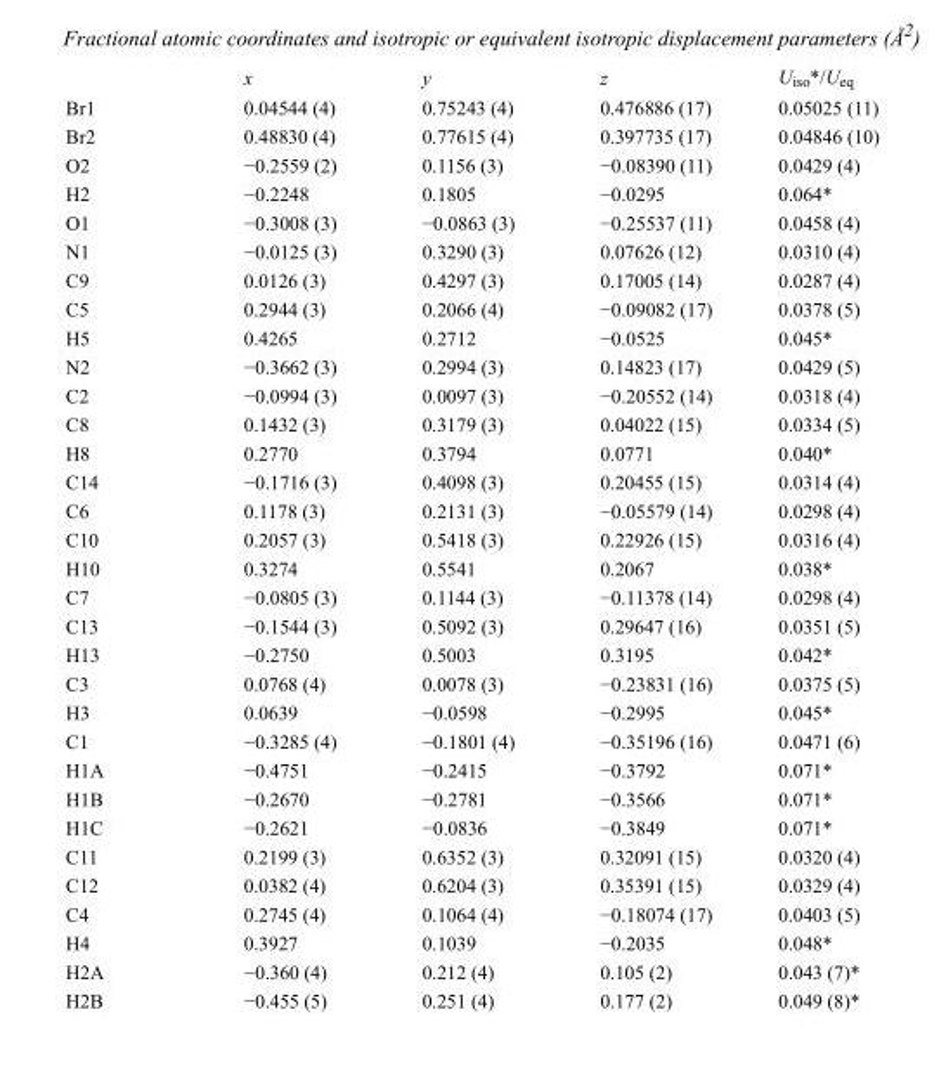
<table><thead><tr><td></td><td>x</td><td>y</td><td>z</td><td>U<sub>iso</sub>*/U<sub>eq</sub></td></tr></thead><tbody><tr><td>Br1</td><td>0.04544 (4)</td><td>0.75243 (4)</td><td>0.476886 (17)</td><td>0.05025 (11)</td></tr><tr><td>Br2</td><td>0.48830 (4)</td><td>0.77615 (4)</td><td>0.397735 (17)</td><td>0.04846 (10)</td></tr><tr><td>O2</td><td>−0.2559 (2)</td><td>0.1156 (3)</td><td>−0.08390 (11)</td><td>0.0429 (4)</td></tr><tr><td>H2</td><td>−0.2248</td><td>0.1805</td><td>−0.0295</td><td>0.064*</td></tr><tr><td>O1</td><td>−0.3008 (3)</td><td>−0.0863 (3)</td><td>−0.25537 (11)</td><td>0.0458 (4)</td></tr><tr><td>N1</td><td>−0.0125 (3)</td><td>0.3290 (3)</td><td>0.07626 (12)</td><td>0.0310 (4)</td></tr><tr><td>C9</td><td>0.0126 (3)</td><td>0.4297 (3)</td><td>0.17005 (14)</td><td>0.0287 (4)</td></tr><tr><td>C5</td><td>0.2944 (3)</td><td>0.2066 (4)</td><td>−0.09082 (17)</td><td>0.0378 (5)</td></tr><tr><td>H5</td><td>0.4265</td><td>0.2712</td><td>−0.0525</td><td>0.045*</td></tr><tr><td>N2</td><td>−0.3662 (3)</td><td>0.2994 (3)</td><td>0.14823 (17)</td><td>0.0429 (5)</td></tr><tr><td>C2</td><td>−0.0994 (3)</td><td>0.0097 (3)</td><td>−0.20552 (14)</td><td>0.0318 (4)</td></tr><tr><td>C8</td><td>0.1432 (3)</td><td>0.3179 (3)</td><td>0.04022 (15)</td><td>0.0334 (5)</td></tr><tr><td>H8</td><td>0.2770</td><td>0.3794</td><td>0.0771</td><td>0.040*</td></tr><tr><td>C14</td><td>−0.1716 (3)</td><td>0.4098 (3)</td><td>0.20455 (15)</td><td>0.0314 (4)</td></tr><tr><td>C6</td><td>0.1178 (3)</td><td>0.2131 (3)</td><td>−0.05579 (14)</td><td>0.0298 (4)</td></tr><tr><td>C10</td><td>0.2057 (3)</td><td>0.5418 (3)</td><td>0.22926 (15)</td><td>0.0316 (4)</td></tr><tr><td>H10</td><td>0.3274</td><td>0.5541</td><td>0.2067</td><td>0.038*</td></tr><tr><td>C7</td><td>−0.0805 (3)</td><td>0.1144 (3)</td><td>−0.11378 (14)</td><td>0.0298 (4)</td></tr><tr><td>C13</td><td>−0.1544 (3)</td><td>0.5092 (3)</td><td>0.29647 (16)</td><td>0.0351 (5)</td></tr><tr><td>H13</td><td>−0.2750</td><td>0.5003</td><td>0.3195</td><td>0.042*</td></tr><tr><td>C3</td><td>0.0768 (4)</td><td>0.0078 (3)</td><td>−0.23831 (16)</td><td>0.0375 (5)</td></tr><tr><td>H3</td><td>0.0639</td><td>−0.0598</td><td>−0.2995</td><td>0.045*</td></tr><tr><td>C1</td><td>−0.3285 (4)</td><td>−0.1801 (4)</td><td>−0.35196 (16)</td><td>0.0471 (6)</td></tr><tr><td>H1A</td><td>−0.4751</td><td>−0.2415</td><td>−0.3792</td><td>0.071*</td></tr><tr><td>H1B</td><td>−0.2670</td><td>−0.2781</td><td>−0.3566</td><td>0.071*</td></tr><tr><td>H1C</td><td>−0.2621</td><td>−0.0836</td><td>−0.3849</td><td>0.071*</td></tr><tr><td>C11</td><td>0.2199 (3)</td><td>0.6352 (3)</td><td>0.32091 (15)</td><td>0.0320 (4)</td></tr><tr><td>C12</td><td>0.0382 (4)</td><td>0.6204 (3)</td><td>0.35391 (15)</td><td>0.0329 (4)</td></tr><tr><td>C4</td><td>0.2745 (4)</td><td>0.1064 (4)</td><td>−0.18074 (17)</td><td>0.0403 (5)</td></tr><tr><td>H4</td><td>0.3927</td><td>0.1039</td><td>−0.2035</td><td>0.048*</td></tr><tr><td>H2A</td><td>−0.360 (4)</td><td>0.212 (4)</td><td>0.105 (2)</td><td>0.043 (7)*</td></tr><tr><td>H2B</td><td>−0.455 (5)</td><td>0.251 (4)</td><td>0.177 (2)</td><td>0.049 (8)*</td></tr></tbody></table>